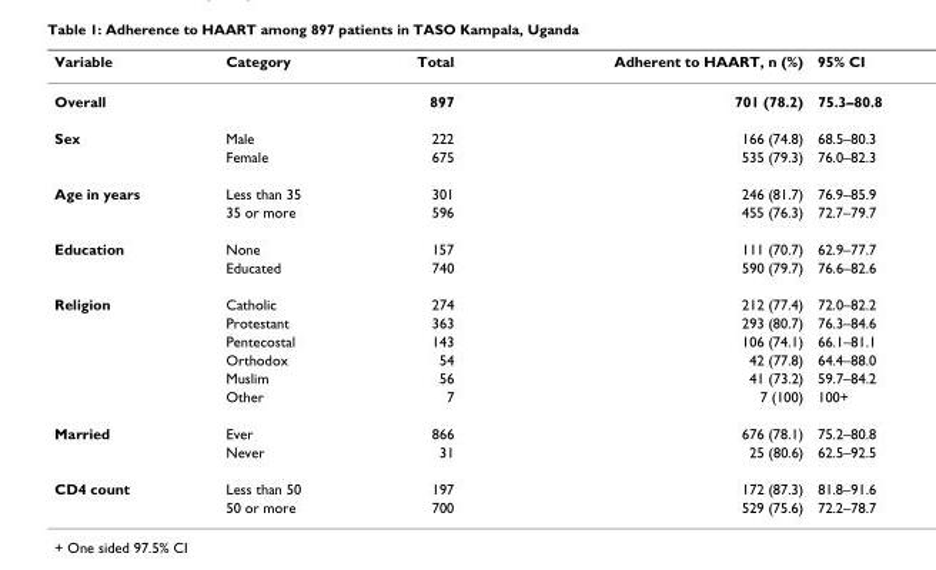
<table><thead><tr><td>Variable</td><td>Category</td><td>Total</td><td>Adherent to HAART, n (%)</td><td>95% CI</td></tr></thead><tbody><tr><td>Overall</td><td></td><td>897</td><td>701 (78.2)</td><td>75.3–80.8</td></tr><tr><td rowspan="2">Sex</td><td>Male</td><td>222</td><td>166 (74.8)</td><td>68.5–80.3</td></tr><tr><td>Female</td><td>675</td><td>535 (79.3)</td><td>76.0–82.3</td></tr><tr><td rowspan="2">Age in years</td><td>Less than 35</td><td>301</td><td>246 (81.7)</td><td>76.9–85.9</td></tr><tr><td>35 or more</td><td>596</td><td>455 (76.3)</td><td>72.7–79.7</td></tr><tr><td rowspan="2">Education</td><td>None</td><td>157</td><td>111 (70.7)</td><td>62.9–77.7</td></tr><tr><td>Educated</td><td>740</td><td>590 (79.7)</td><td>76.6–82.6</td></tr><tr><td rowspan="6">Religion</td><td>Catholic</td><td>274</td><td>212 (77.4)</td><td>72.0–82.2</td></tr><tr><td>Protestant</td><td>363</td><td>293 (80.7)</td><td>76.3–84.6</td></tr><tr><td>Pentecostal</td><td>143</td><td>106 (74.1)</td><td>66.1–81.1</td></tr><tr><td>Orthodox</td><td>54</td><td>42 (77.8)</td><td>64.4–88.0</td></tr><tr><td>Muslim</td><td>56</td><td>41 (73.2)</td><td>59.7–84.2</td></tr><tr><td>Other</td><td>7</td><td>7 (100)</td><td>100+</td></tr><tr><td rowspan="2">Married</td><td>Ever</td><td>866</td><td>676 (78.1)</td><td>75.2–80.8</td></tr><tr><td>Never</td><td>31</td><td>25 (80.6)</td><td>62.5–92.5</td></tr><tr><td rowspan="2">CD4 count</td><td>Less than 50</td><td>197</td><td>172 (87.3)</td><td>81.8–91.6</td></tr><tr><td>50 or more</td><td>700</td><td>529 (75.6)</td><td>72.2–78.7</td></tr></tbody></table>